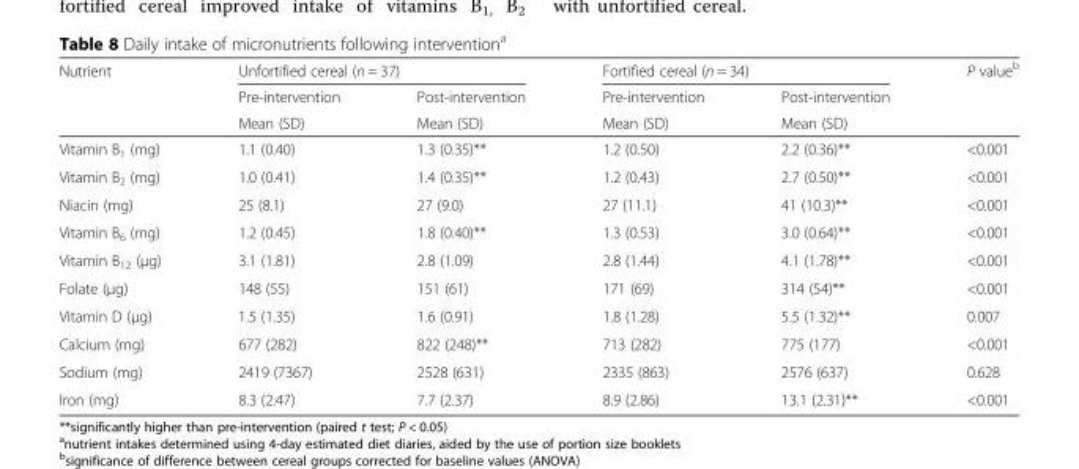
<table><thead><tr><td rowspan="3">Nutrient</td><td colspan="2">Unfortified cereal (n = 37)</td><td colspan="2">Fortified cereal (n = 34)</td><td rowspan="3">P value<sup>b</sup></td></tr><tr><td rowspan="2">Pre-intervention Mean (SD)</td><td rowspan="2">Post-intervention Mean (SD)</td><td rowspan="2">Pre-intervention Mean (SD)</td><td rowspan="2">Post-intervention Mean (SD)</td></tr><tr></tr></thead><tbody><tr><td>Vitamin B<sub>1</sub> (mg)</td><td>1.1 (0.40)</td><td>1.3 (0.35)**</td><td>1.2 (0.50)</td><td>2.2 (0.36)**</td><td>&lt;0.001</td></tr><tr><td>Vitamin B<sub>2</sub> (mg)</td><td>1.0 (0.41)</td><td>1.4 (0.35)**</td><td>1.2 (0.43)</td><td>2.7 (0.50)**</td><td>&lt;0.001</td></tr><tr><td>Niacin (mg)</td><td>25 (8.1)</td><td>27 (9.0)</td><td>27 (11.1)</td><td>41 (10.3)**</td><td>&lt;0.001</td></tr><tr><td>Vitamin B<sub>6</sub> (mg)</td><td>1.2 (0.45)</td><td>1.8 (0.40)**</td><td>1.3 (0.53)</td><td>3.0 (0.64)**</td><td>&lt;0.001</td></tr><tr><td>Vitamin B<sub>12</sub> (μg)</td><td>3.1 (1.81)</td><td>2.8 (1.09)</td><td>2.8 (1.44)</td><td>4.1 (1.78)**</td><td>&lt;0.001</td></tr><tr><td>Folate (μg)</td><td>148 (55)</td><td>151 (61)</td><td>171 (69)</td><td>314 (54)**</td><td>&lt;0.001</td></tr><tr><td>Vitamin D (μg)</td><td>1.5 (1.35)</td><td>1.6 (0.91)</td><td>1.8 (1.28)</td><td>5.5 (1.32)**</td><td>0.007</td></tr><tr><td>Calcium (mg)</td><td>677 (282)</td><td>822 (248)**</td><td>713 (282)</td><td>775 (177)</td><td>&lt;0.001</td></tr><tr><td>Sodium (mg)</td><td>2419 (7367)</td><td>2528 (631)</td><td>2335 (863)</td><td>2576 (637)</td><td>0.628</td></tr><tr><td>Iron (mg)</td><td>8.3 (2.47)</td><td>7.7 (2.37)</td><td>8.9 (2.86)</td><td>13.1 (2.31)**</td><td>&lt;0.001</td></tr></tbody></table>